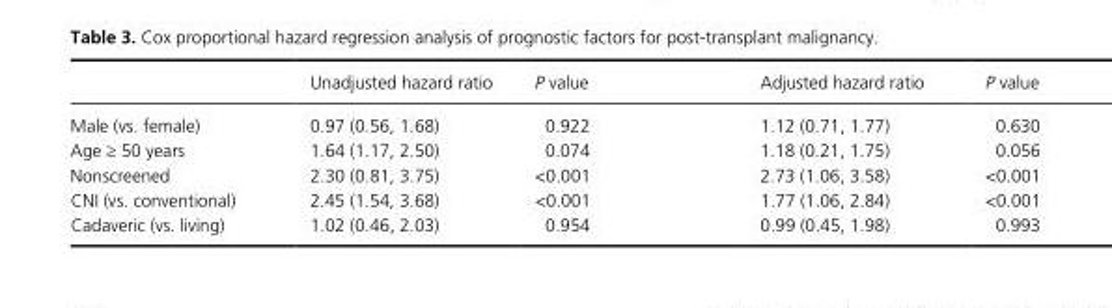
<table><thead><tr><td></td><td>Unadjusted hazard ratio</td><td>P value</td><td>Adjusted hazard ratio</td><td>P value</td></tr></thead><tbody><tr><td>Male (vs. female)</td><td>0.97 (0.56, 1.68)</td><td>0.922</td><td>1.12 (0.71, 1.77)</td><td>0.630</td></tr><tr><td>Age ≥ 50 years</td><td>1.64 (1.17, 2.50)</td><td>0.074</td><td>1.18 (0.21, 1.75)</td><td>0.056</td></tr><tr><td>Nonscreened</td><td>2.30 (0.81, 3.75)</td><td>&lt;0.001</td><td>2.73 (1.06, 3.58)</td><td>&lt;0.001</td></tr><tr><td>CNI (vs. conventional)</td><td>2.45 (1.54, 3.68)</td><td>&lt;0.001</td><td>1.77 (1.06, 2.84)</td><td>&lt;0.001</td></tr><tr><td>Cadaveric (vs. living)</td><td>1.02 (0.46, 2.03)</td><td>0.954</td><td>0.99 (0.45, 1.98)</td><td>0.993</td></tr></tbody></table>